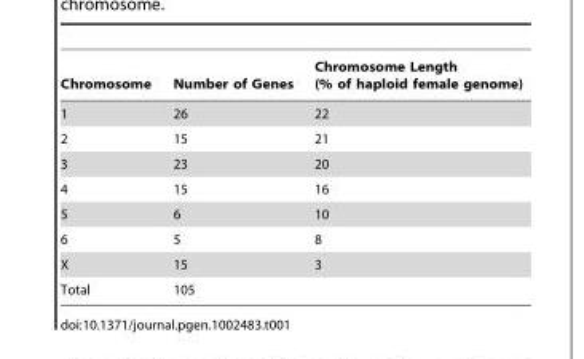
<table><thead><tr><td>Chromosome</td><td>Number of Genes</td><td>Chromosome Length (% of haploid female genome)</td></tr></thead><tbody><tr><td>1</td><td>26</td><td>22</td></tr><tr><td>2</td><td>15</td><td>21</td></tr><tr><td>3</td><td>23</td><td>20</td></tr><tr><td>4</td><td>15</td><td>16</td></tr><tr><td>5</td><td>6</td><td>10</td></tr><tr><td>6</td><td>5</td><td>8</td></tr><tr><td>X</td><td>15</td><td>3</td></tr><tr><td>Total</td><td>105</td><td></td></tr></tbody></table>